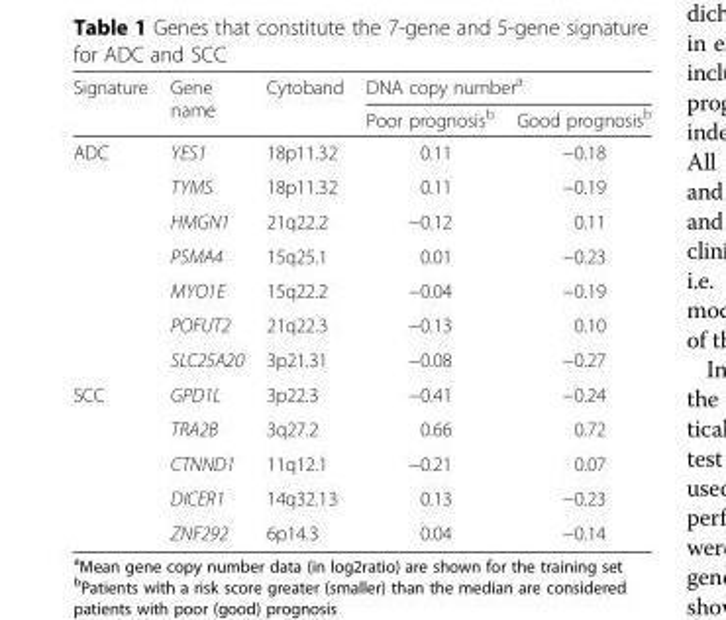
<table><thead><tr><td rowspan="2">Signature</td><td rowspan="2">Gene name</td><td rowspan="2">Cytoband</td><td colspan="2">DNA copy number<sup>a</sup></td></tr><tr><td>Poor prognosis<sup>b</sup></td><td>Good prognosis<sup>b</sup></td></tr></thead><tbody><tr><td rowspan="7">ADC</td><td>YES1</td><td>18p11.32</td><td>0.11</td><td>−0.18</td></tr><tr><td>TYMS</td><td>18p11.32</td><td>0.11</td><td>−0.19</td></tr><tr><td>HMGN1</td><td>21q22.2</td><td>−0.12</td><td>0.11</td></tr><tr><td>PSMA4</td><td>15q25.1</td><td>0.01</td><td>−0.23</td></tr><tr><td>MYO1E</td><td>15q22.2</td><td>−0.04</td><td>−0.19</td></tr><tr><td>POFUT2</td><td>21q22.3</td><td>−0.13</td><td>0.10</td></tr><tr><td>SLC25A20</td><td>3p21.31</td><td>−0.08</td><td>−0.27</td></tr><tr><td rowspan="5">SCC</td><td>GPD1L</td><td>3p22.3</td><td>−0.41</td><td>−0.24</td></tr><tr><td>TRA2B</td><td>3q27.2</td><td>0.66</td><td>0.72</td></tr><tr><td>CTNND1</td><td>11q12.1</td><td>−0.21</td><td>0.07</td></tr><tr><td>DICER1</td><td>14q32.13</td><td>0.13</td><td>−0.23</td></tr><tr><td>ZNF292</td><td>6p14.3</td><td>0.04</td><td>−0.14</td></tr></tbody></table>